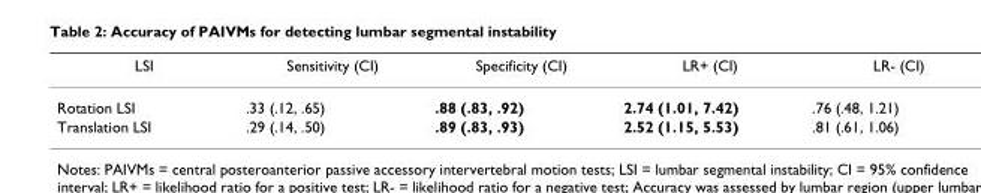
<table><thead><tr><td>LSI</td><td>Sensitivity (CI)</td><td>Specificity (CI)</td><td>LR+ (CI)</td><td>LR- (CI)</td></tr></thead><tbody><tr><td>Rotation LSI</td><td>.33 (.12, .65)</td><td>.88 (.83, .92)</td><td>2.74 (1.01, 7.42)</td><td>.76 (.48, 1.21)</td></tr><tr><td>Translation LSI</td><td>.29 (.14, .50)</td><td>.89 (.83, .93)</td><td>2.52 (1.15, 5.53)</td><td>.81 (.61, 1.06)</td></tr></tbody></table>